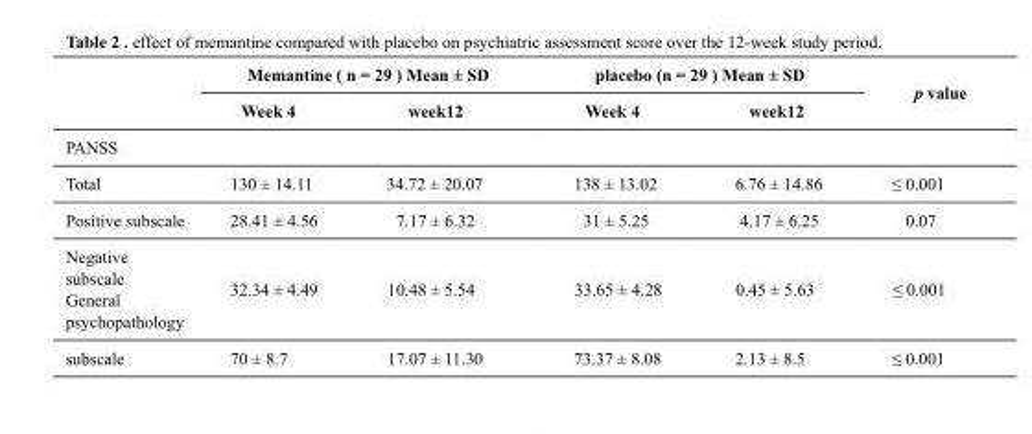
<table><thead><tr><td rowspan="2"></td><td colspan="2">Memantine ( n = 29 ) Mean ± SD</td><td colspan="2">placebo (n = 29 ) Mean ± SD</td><td rowspan="2">p value</td></tr><tr><td>Week 4</td><td>week12</td><td>Week 4</td><td>week12</td></tr></thead><tbody><tr><td colspan="6">PANSS</td></tr><tr><td>Total</td><td>130 ± 14.11</td><td>34.72 ± 20.07</td><td>138 ± 13.02</td><td>6.76 ± 14.86</td><td>≤ 0.001</td></tr><tr><td>Positive subscale</td><td>28.41 ± 4.56</td><td>7.17 ± 6.32</td><td>31 ± 5.25</td><td>4.17 ± 6.25</td><td>0.07</td></tr><tr><td>Negative subscale General psychopathology</td><td>32.34 ± 4.49</td><td>10.48 ± 5.54</td><td>33.65 ± 4.28</td><td>0.45 ± 5.63</td><td>≤ 0.001</td></tr><tr><td>subscale</td><td>70 ± 8.7</td><td>17.07 ± 11.30</td><td>73.37 ± 8.08</td><td>2.13 ± 8.5</td><td>≤ 0.001</td></tr></tbody></table>